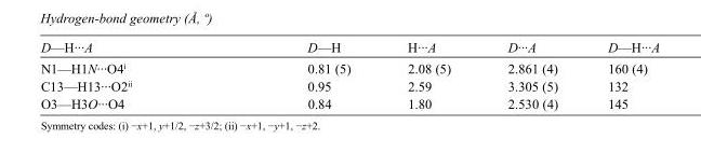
<table><tbody><tr><td>D—H···A</td><td>D—H</td><td>H···A</td><td>D···A</td><td>D—H···A</td></tr><tr><td>N1—H1N···O4<sup>i</sup></td><td>0.81 (5)</td><td>2.08 (5)</td><td>2.861 (4)</td><td>160 (4)</td></tr><tr><td>C13—H13···O2<sup>ii</sup></td><td>0.95</td><td>2.59</td><td>3.305 (5)</td><td>132</td></tr><tr><td>O3—H3O···O4</td><td>0.84</td><td>1.80</td><td>2.530 (4)</td><td>145</td></tr></tbody></table>